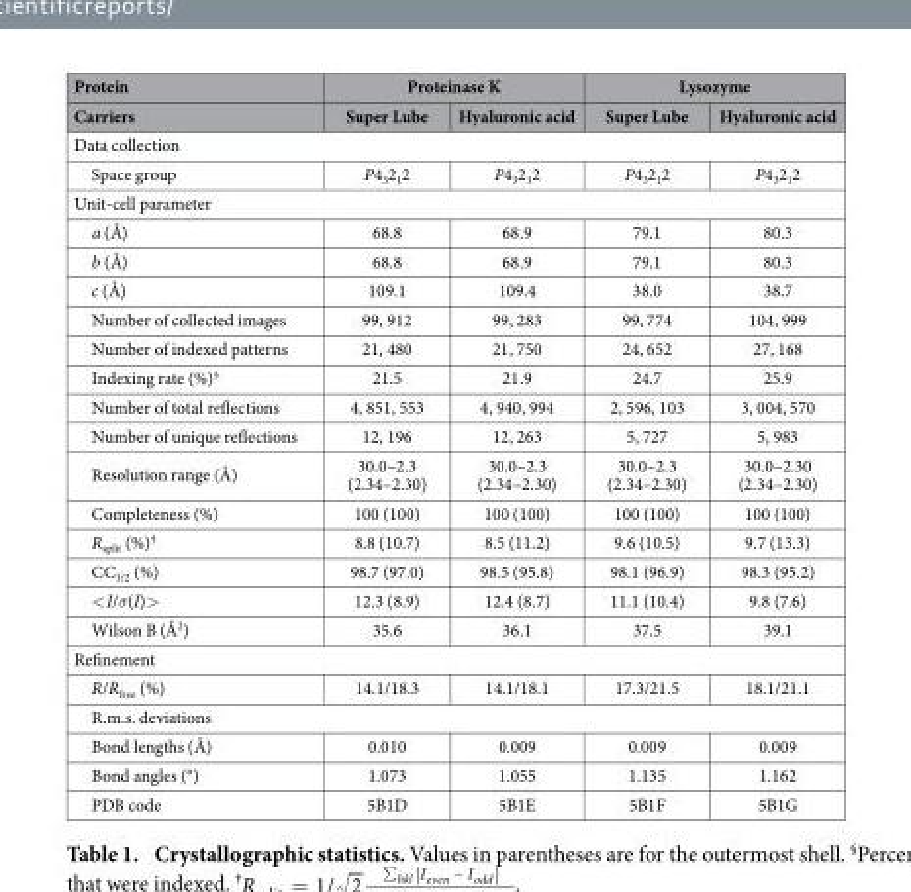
<table><thead><tr><td rowspan="2">Protein Carriers</td><td colspan="2">Proteinase K</td><td colspan="2">Lysozyme</td></tr><tr><td>Super Lube</td><td>Hyaluronic acid</td><td>Super Lube</td><td>Hyaluronic acid</td></tr></thead><tbody><tr><td colspan="5">Data collection</td></tr><tr><td>Space group</td><td>P4<sub>3</sub>2<sub>1</sub>2</td><td>P4<sub>3</sub>2<sub>1</sub>2</td><td>P4<sub>3</sub>2<sub>1</sub>2</td><td>P4<sub>3</sub>2<sub>1</sub>2</td></tr><tr><td colspan="5">Unit-cell parameter</td></tr><tr><td>a (Å)</td><td>68.8</td><td>68.9</td><td>79.1</td><td>80.3</td></tr><tr><td>b (Å)</td><td>68.8</td><td>68.9</td><td>79.1</td><td>80.3</td></tr><tr><td>c (Å)</td><td>109.1</td><td>109.4</td><td>38.0</td><td>38.7</td></tr><tr><td>Number of collected images</td><td>99, 912</td><td>99, 283</td><td>99, 774</td><td>104, 999</td></tr><tr><td>Number of indexed patterns</td><td>21, 480</td><td>21, 750</td><td>24, 652</td><td>27, 168</td></tr><tr><td>Indexing rate (%)§</td><td>21.5</td><td>21.9</td><td>24.7</td><td>25.9</td></tr><tr><td>Number of total reflections</td><td>4, 851, 553</td><td>4, 940, 994</td><td>2, 596, 103</td><td>3, 004, 570</td></tr><tr><td>Number of unique reflections</td><td>12, 196</td><td>12, 263</td><td>5, 727</td><td>5, 983</td></tr><tr><td>Resolution range (Å)</td><td>30.0–2.3 (2.34–2.30)</td><td>30.0–2.3 (2.34–2.30)</td><td>30.0–2.3 (2.34–2.30)</td><td>30.0–2.30 (2.34–2.30)</td></tr><tr><td>Completeness (%)</td><td>100 (100)</td><td>100 (100)</td><td>100 (100)</td><td>100 (100)</td></tr><tr><td>R<sub>split</sub> (%)†</td><td>8.8 (10.7)</td><td>8.5 (11.2)</td><td>9.6 (10.5)</td><td>9.7 (13.3)</td></tr><tr><td>CC<sub>1/2</sub> (%)</td><td>98.7 (97.0)</td><td>98.5 (95.8)</td><td>98.1 (96.9)</td><td>98.3 (95.2)</td></tr><tr><td>&lt; I/σ(I)&gt;</td><td>12.3 (8.9)</td><td>12.4 (8.7)</td><td>11.1 (10.4)</td><td>9.8 (7.6)</td></tr><tr><td>Wilson B (Å<sup>2</sup>)</td><td>35.6</td><td>36.1</td><td>37.5</td><td>39.1</td></tr><tr><td colspan="5">Refinement</td></tr><tr><td>R/R<sub>free</sub> (%)</td><td>14.1/18.3</td><td>14.1/18.1</td><td>17.3/21.5</td><td>18.1/21.1</td></tr><tr><td colspan="5">R.m.s. deviations</td></tr><tr><td>Bond lengths (Å)</td><td>0.010</td><td>0.009</td><td>0.009</td><td>0.009</td></tr><tr><td>Bond angles (°)</td><td>1.073</td><td>1.055</td><td>1.135</td><td>1.162</td></tr><tr><td>PDB code</td><td>5B1D</td><td>5B1E</td><td>5B1F</td><td>5B1G</td></tr></tbody></table>